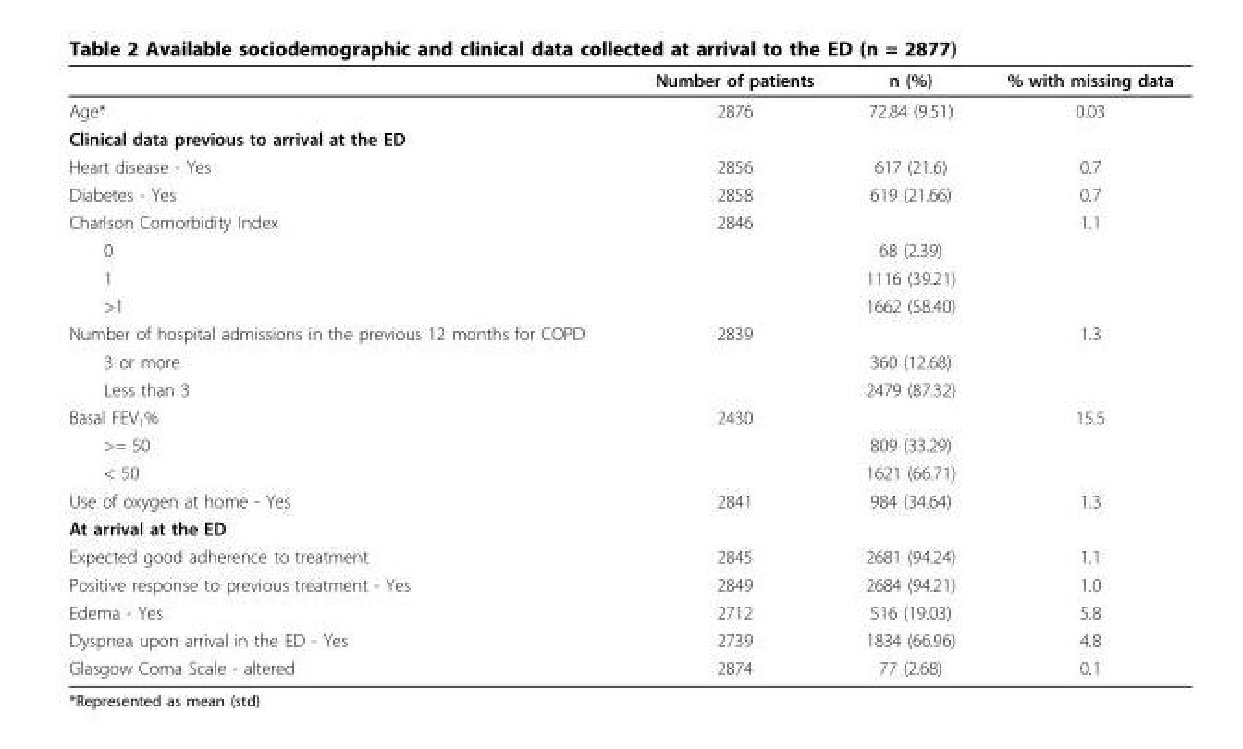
<table><thead><tr><td></td><td>Number of patients</td><td>n (%)</td><td>% with missing data</td></tr></thead><tbody><tr><td>Age*</td><td>2876</td><td>72.84 (9.51)</td><td>0.03</td></tr><tr><td colspan="4">Clinical data previous to arrival at the ED</td></tr><tr><td>Heart disease - Yes</td><td>2856</td><td>617 (21.6)</td><td>0.7</td></tr><tr><td>Diabetes - Yes</td><td>2858</td><td>619 (21.66)</td><td>0.7</td></tr><tr><td>Charlson Comorbidity Index</td><td>2846</td><td></td><td>1.1</td></tr><tr><td>0</td><td></td><td>68 (2.39)</td><td></td></tr><tr><td>1</td><td></td><td>1116 (39.21)</td><td></td></tr><tr><td>&gt;1</td><td></td><td>1662 (58.40)</td><td></td></tr><tr><td>Number of hospital admissions in the previous 12 months for COPD</td><td>2839</td><td></td><td>1.3</td></tr><tr><td>3 or more</td><td></td><td>360 (12.68)</td><td></td></tr><tr><td>Less than 3</td><td></td><td>2479 (87.32)</td><td></td></tr><tr><td>Basal FEV<sub>1</sub>%</td><td>2430</td><td></td><td>15.5</td></tr><tr><td>&gt;= 50</td><td></td><td>809 (33.29)</td><td></td></tr><tr><td>&lt; 50</td><td></td><td>1621 (66.71)</td><td></td></tr><tr><td>Use of oxygen at home - Yes</td><td>2841</td><td>984 (34.64)</td><td>1.3</td></tr><tr><td colspan="4">At arrival at the ED</td></tr><tr><td>Expected good adherence to treatment</td><td>2845</td><td>2681 (94.24)</td><td>1.1</td></tr><tr><td>Positive response to previous treatment - Yes</td><td>2849</td><td>2684 (94.21)</td><td>1.0</td></tr><tr><td>Edema - Yes</td><td>2712</td><td>516 (19.03)</td><td>5.8</td></tr><tr><td>Dyspnea upon arrival in the ED - Yes</td><td>2739</td><td>1834 (66.96)</td><td>4.8</td></tr><tr><td>Glasgow Coma Scale - altered</td><td>2874</td><td>77 (2.68)</td><td>0.1</td></tr></tbody></table>